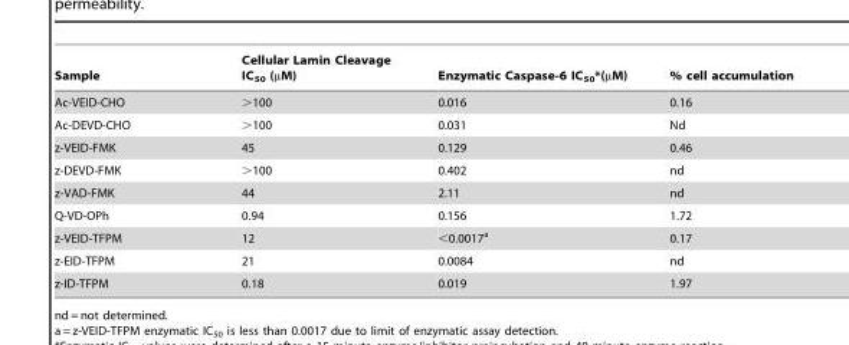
<table><thead><tr><td>Sample</td><td>Cellular Lamin Cleavage IC<sub>50</sub> (µM)</td><td>Enzymatic Caspase-6 IC<sub>50</sub>*(µM)</td><td>% cell accumulation</td></tr></thead><tbody><tr><td>Ac-VEID-CHO</td><td>&gt;100</td><td>0.016</td><td>0.16</td></tr><tr><td>Ac-DEVD-CHO</td><td>&gt;100</td><td>0.031</td><td>Nd</td></tr><tr><td>z-VEID-FMK</td><td>45</td><td>0.129</td><td>0.46</td></tr><tr><td>z-DEVD-FMK</td><td>&gt;100</td><td>0.402</td><td>nd</td></tr><tr><td>z-VAD-FMK</td><td>44</td><td>2.11</td><td>nd</td></tr><tr><td>Q-VD-OPh</td><td>0.94</td><td>0.156</td><td>1.72</td></tr><tr><td>z-VEID-TFPM</td><td>12</td><td>&lt;0.0017<sup>a</sup></td><td>0.17</td></tr><tr><td>z-EID-TFPM</td><td>21</td><td>0.0084</td><td>nd</td></tr><tr><td>z-ID-TFPM</td><td>0.18</td><td>0.019</td><td>1.97</td></tr></tbody></table>